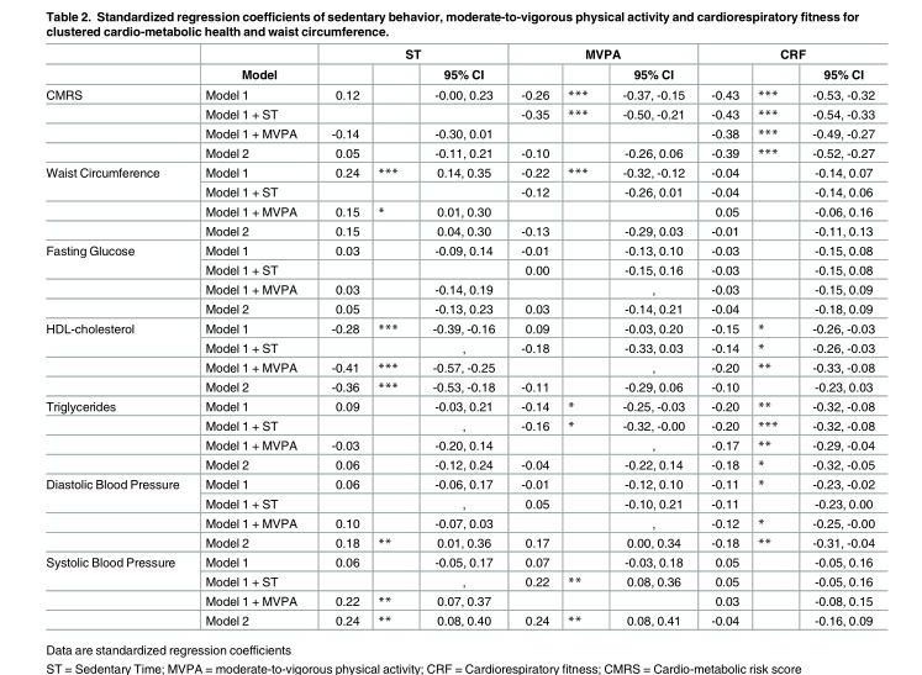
<table><thead><tr><td rowspan="2"></td><td rowspan="2">Model</td><td colspan="3">ST</td><td colspan="3">MVPA</td><td colspan="3">CRF</td></tr><tr><td></td><td></td><td>95% CI</td><td></td><td></td><td>95% CI</td><td></td><td></td><td>95% CI</td></tr></thead><tbody><tr><td rowspan="4">CMRS</td><td>Model 1</td><td>0.12</td><td></td><td>-0.00, 0.23</td><td>-0.26</td><td>***</td><td>-0.37, -0.15</td><td>-0.43</td><td>***</td><td>-0.53, -0.32</td></tr><tr><td>Model 1 + ST</td><td></td><td></td><td></td><td>-0.35</td><td>***</td><td>-0.50, -0.21</td><td>-0.43</td><td>***</td><td>-0.54, -0.33</td></tr><tr><td>Model 1 + MVPA</td><td>-0.14</td><td></td><td>-0.30, 0.01</td><td></td><td></td><td></td><td>-0.38</td><td>***</td><td>-0.49, -0.27</td></tr><tr><td>Model 2</td><td>0.05</td><td></td><td>-0.11, 0.21</td><td>-0.10</td><td></td><td>-0.26, 0.06</td><td>-0.39</td><td>***</td><td>-0.52, -0.27</td></tr><tr><td rowspan="4">Waist Circumference</td><td>Model 1</td><td>0.24</td><td>***</td><td>0.14, 0.35</td><td>-0.22</td><td>***</td><td>-0.32, -0.12</td><td>-0.04</td><td></td><td>-0.14, 0.07</td></tr><tr><td>Model 1 + ST</td><td></td><td></td><td></td><td>-0.12</td><td></td><td>-0.26, 0.01</td><td>-0.04</td><td></td><td>-0.14, 0.06</td></tr><tr><td>Model 1 + MVPA</td><td>0.15</td><td>*</td><td>0.01, 0.30</td><td></td><td></td><td></td><td>0.05</td><td></td><td>-0.06, 0.16</td></tr><tr><td>Model 2</td><td>0.15</td><td></td><td>0.04, 0.30</td><td>-0.13</td><td></td><td>-0.29, 0.03</td><td>-0.01</td><td></td><td>-0.11, 0.13</td></tr><tr><td rowspan="4">Fasting Glucose</td><td>Model 1</td><td>0.03</td><td></td><td>-0.09, 0.14</td><td>-0.01</td><td></td><td>-0.13, 0.10</td><td>-0.03</td><td></td><td>-0.15, 0.08</td></tr><tr><td>Model 1 + ST</td><td></td><td></td><td></td><td>0.00</td><td></td><td>-0.15, 0.16</td><td>-0.03</td><td></td><td>-0.15, 0.08</td></tr><tr><td>Model 1 + MVPA</td><td>0.03</td><td></td><td>-0.14, 0.19</td><td></td><td></td><td>,</td><td>-0.03</td><td></td><td>-0.15, 0.09</td></tr><tr><td>Model 2</td><td>0.05</td><td></td><td>-0.13, 0.23</td><td>0.03</td><td></td><td>-0.14, 0.21</td><td>-0.04</td><td></td><td>-0.18, 0.09</td></tr><tr><td rowspan="4">HDL-cholesterol</td><td>Model 1</td><td>-0.28</td><td>***</td><td>-0.39, -0.16</td><td>0.09</td><td></td><td>-0.03, 0.20</td><td>-0.15</td><td>*</td><td>-0.26, -0.03</td></tr><tr><td>Model 1 + ST</td><td></td><td></td><td>,</td><td>-0.18</td><td></td><td>-0.33, 0.03</td><td>-0.14</td><td>*</td><td>-0.26, -0.03</td></tr><tr><td>Model 1 + MVPA</td><td>-0.41</td><td>***</td><td>-0.57, -0.25</td><td></td><td></td><td>,</td><td>-0.20</td><td>**</td><td>-0.33, -0.08</td></tr><tr><td>Model 2</td><td>-0.36</td><td>***</td><td>-0.53, -0.18</td><td>-0.11</td><td></td><td>-0.29, 0.06</td><td>-0.10</td><td></td><td>-0.23, 0.03</td></tr><tr><td rowspan="4">Triglycerides</td><td>Model 1</td><td>0.09</td><td></td><td>-0.03, 0.21</td><td>-0.14</td><td>*</td><td>-0.25, -0.03</td><td>-0.20</td><td>**</td><td>-0.32, -0.08</td></tr><tr><td>Model 1 + ST</td><td></td><td></td><td>,</td><td>-0.16</td><td>*</td><td>-0.32, -0.00</td><td>-0.20</td><td>***</td><td>-0.32, -0.08</td></tr><tr><td>Model 1 + MVPA</td><td>-0.03</td><td></td><td>-0.20, 0.14</td><td></td><td></td><td>,</td><td>-0.17</td><td>**</td><td>-0.29, -0.04</td></tr><tr><td>Model 2</td><td>0.06</td><td></td><td>-0.12, 0.24</td><td>-0.04</td><td></td><td>-0.22, 0.14</td><td>-0.18</td><td>*</td><td>-0.32, -0.05</td></tr><tr><td rowspan="4">Diastolic Blood Pressure</td><td>Model 1</td><td>0.06</td><td></td><td>-0.06, 0.17</td><td>-0.01</td><td></td><td>-0.12, 0.10</td><td>-0.11</td><td>*</td><td>-0.23, -0.02</td></tr><tr><td>Model 1 + ST</td><td></td><td></td><td>,</td><td>0.05</td><td></td><td>-0.10, 0.21</td><td>-0.11</td><td></td><td>-0.23, 0.00</td></tr><tr><td>Model 1 + MVPA</td><td>0.10</td><td></td><td>-0.07, 0.03</td><td></td><td></td><td>,</td><td>-0.12</td><td>*</td><td>-0.25, -0.00</td></tr><tr><td>Model 2</td><td>0.18</td><td>**</td><td>0.01, 0.36</td><td>0.17</td><td></td><td>0.00, 0.34</td><td>-0.18</td><td>**</td><td>-0.31, -0.04</td></tr><tr><td rowspan="4">Systolic Blood Pressure</td><td>Model 1</td><td>0.06</td><td></td><td>-0.05, 0.17</td><td>0.07</td><td></td><td>-0.03, 0.18</td><td>0.05</td><td></td><td>-0.05, 0.16</td></tr><tr><td>Model 1 + ST</td><td></td><td></td><td>,</td><td>0.22</td><td>**</td><td>0.08, 0.36</td><td>0.05</td><td></td><td>-0.05, 0.16</td></tr><tr><td>Model 1 + MVPA</td><td>0.22</td><td>**</td><td>0.07, 0.37</td><td></td><td></td><td></td><td>0.03</td><td></td><td>-0.08, 0.15</td></tr><tr><td>Model 2</td><td>0.24</td><td>**</td><td>0.08, 0.40</td><td>0.24</td><td>**</td><td>0.08, 0.41</td><td>-0.04</td><td></td><td>-0.16, 0.09</td></tr></tbody></table>